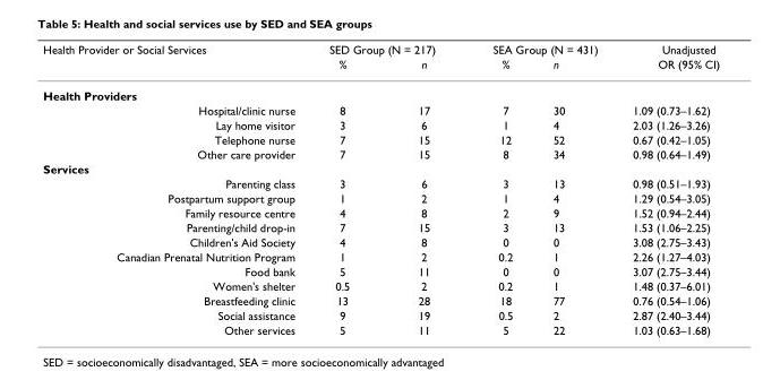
<table><thead><tr><td rowspan="2">Health Provider or Social Services</td><td colspan="2">SED Group (N = 217)</td><td colspan="2">SEA Group (N = 431)</td><td rowspan="2">Unadjusted OR (95% CI)</td></tr><tr><td>%</td><td>n</td><td>%</td><td>n</td></tr></thead><tbody><tr><td colspan="6">Health Providers</td></tr><tr><td>Hospital/clinic nurse</td><td>8</td><td>17</td><td>7</td><td>30</td><td>1.09 (0.73–1.62)</td></tr><tr><td>Lay home visitor</td><td>3</td><td>6</td><td>1</td><td>4</td><td>2.03 (1.26–3.26)</td></tr><tr><td>Telephone nurse</td><td>7</td><td>15</td><td>12</td><td>52</td><td>0.67 (0.42–1.05)</td></tr><tr><td>Other care provider</td><td>7</td><td>15</td><td>8</td><td>34</td><td>0.98 (0.64–1.49)</td></tr><tr><td colspan="6">Services</td></tr><tr><td>Parenting class</td><td>3</td><td>6</td><td>3</td><td>13</td><td>0.98 (0.51–1.93)</td></tr><tr><td>Postpartum support group</td><td>1</td><td>2</td><td>1</td><td>4</td><td>1.29 (0.54–3.05)</td></tr><tr><td>Family resource centre</td><td>4</td><td>8</td><td>2</td><td>9</td><td>1.52 (0.94–2.44)</td></tr><tr><td>Parenting/child drop-in</td><td>7</td><td>15</td><td>3</td><td>13</td><td>1.53 (1.06–2.25)</td></tr><tr><td>Children&#x27;s Aid Society</td><td>4</td><td>8</td><td>0</td><td>0</td><td>3.08 (2.75–3.43)</td></tr><tr><td>Canadian Prenatal Nutrition Program</td><td>1</td><td>2</td><td>0.2</td><td>1</td><td>2.26 (1.27–4.03)</td></tr><tr><td>Food bank</td><td>5</td><td>11</td><td>0</td><td>0</td><td>3.07 (2.75–3.44)</td></tr><tr><td>Women&#x27;s shelter</td><td>0.5</td><td>2</td><td>0.2</td><td>1</td><td>1.48 (0.37–6.01)</td></tr><tr><td>Breastfeeding clinic</td><td>13</td><td>28</td><td>18</td><td>77</td><td>0.76 (0.54–1.06)</td></tr><tr><td>Social assistance</td><td>9</td><td>19</td><td>0.5</td><td>2</td><td>2.87 (2.40–3.44)</td></tr><tr><td>Other services</td><td>5</td><td>11</td><td>5</td><td>22</td><td>1.03 (0.63–1.68)</td></tr></tbody></table>